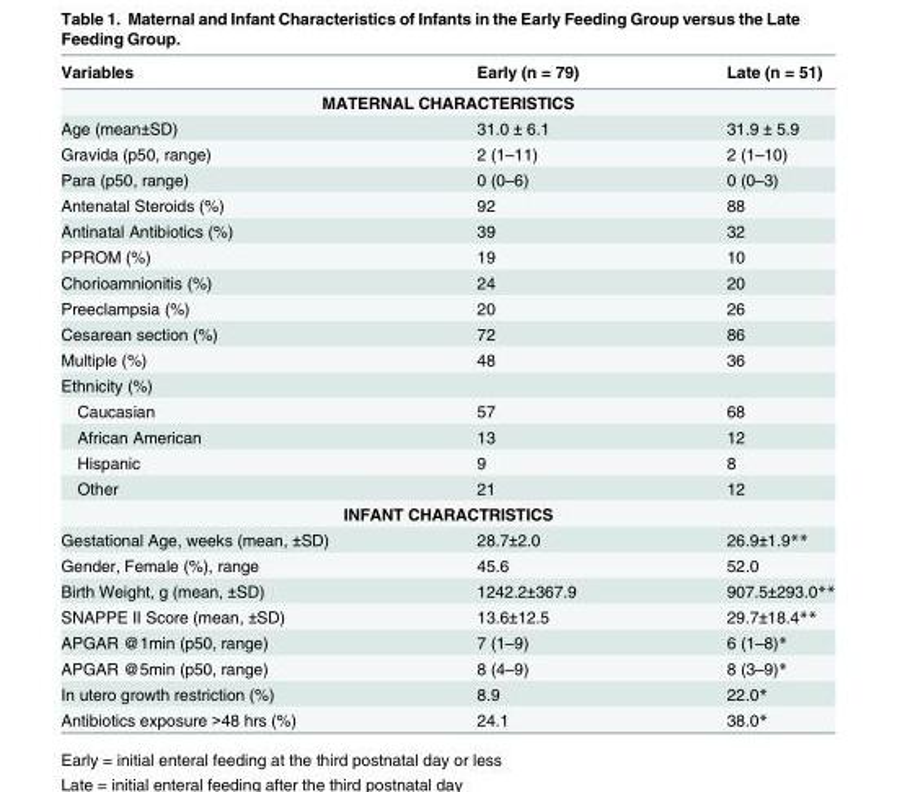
<table><thead><tr><td>Variables</td><td>Early (n = 79)</td><td>Late (n = 51)</td></tr></thead><tbody><tr><td colspan="3">MATERNAL CHARACTERISTICS</td></tr><tr><td>Age (mean±SD)</td><td>31.0 ± 6.1</td><td>31.9 ± 5.9</td></tr><tr><td>Gravida (p50, range)</td><td>2 (1–11)</td><td>2 (1–10)</td></tr><tr><td>Para (p50, range)</td><td>0 (0–6)</td><td>0 (0–3)</td></tr><tr><td>Antenatal Steroids (%)</td><td>92</td><td>88</td></tr><tr><td>Antinatal Antibiotics (%)</td><td>39</td><td>32</td></tr><tr><td>PPROM (%)</td><td>19</td><td>10</td></tr><tr><td>Chorioamnionitis (%)</td><td>24</td><td>20</td></tr><tr><td>Preeclampsia (%)</td><td>20</td><td>26</td></tr><tr><td>Cesarean section (%)</td><td>72</td><td>86</td></tr><tr><td>Multiple (%)</td><td>48</td><td>36</td></tr><tr><td colspan="3">Ethnicity (%)</td></tr><tr><td>Caucasian</td><td>57</td><td>68</td></tr><tr><td>African American</td><td>13</td><td>12</td></tr><tr><td>Hispanic</td><td>9</td><td>8</td></tr><tr><td>Other</td><td>21</td><td>12</td></tr><tr><td colspan="3">INFANT CHARACTRISTICS</td></tr><tr><td>Gestational Age, weeks (mean, ±SD)</td><td>28.7±2.0</td><td>26.9±1.9**</td></tr><tr><td>Gender, Female (%), range</td><td>45.6</td><td>52.0</td></tr><tr><td>Birth Weight, g (mean, ±SD)</td><td>1242.2±367.9</td><td>907.5±293.0**</td></tr><tr><td>SNAPPE II Score (mean, ±SD)</td><td>13.6±12.5</td><td>29.7±18.4**</td></tr><tr><td>APGAR @1min (p50, range)</td><td>7 (1–9)</td><td>6 (1–8)*</td></tr><tr><td>APGAR @5min (p50, range)</td><td>8 (4–9)</td><td>8 (3–9)*</td></tr><tr><td>In utero growth restriction (%)</td><td>8.9</td><td>22.0*</td></tr><tr><td>Antibiotics exposure &gt;48 hrs (%)</td><td>24.1</td><td>38.0*</td></tr></tbody></table>